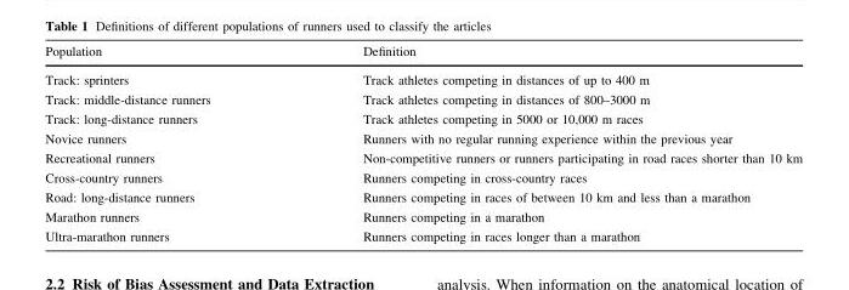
<table><thead><tr><td>Population</td><td>Definition</td></tr></thead><tbody><tr><td>Track: sprinters</td><td>Track athletes competing in distances of up to 400 m</td></tr><tr><td>Track: middle-distance runners</td><td>Track athletes competing in distances of 800–3000 m</td></tr><tr><td>Track: long-distance runners</td><td>Track athletes competing in 5000 or 10,000 m races</td></tr><tr><td>Novice runners</td><td>Runners with no regular running experience within the previous year</td></tr><tr><td>Recreational runners</td><td>Non-competitive runners or runners participating in road races shorter than 10 km</td></tr><tr><td>Cross-country runners</td><td>Runners competing in cross-country races</td></tr><tr><td>Road: long-distance runners</td><td>Runners competing in races of between 10 km and less than a marathon</td></tr><tr><td>Marathon runners</td><td>Runners competing in a marathon</td></tr><tr><td>Ultra-marathon runners</td><td>Runners competing in races longer than a marathon</td></tr></tbody></table>